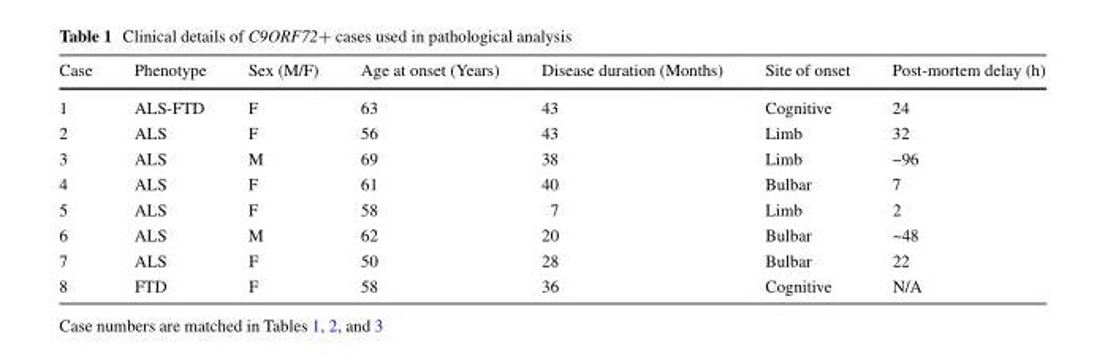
<table><thead><tr><td>Case</td><td>Phenotype</td><td>Sex (M/F)</td><td>Age at onset (Years)</td><td>Disease duration (Months)</td><td>Site of onset</td><td>Post-mortem delay (h)</td></tr></thead><tbody><tr><td>1</td><td>ALS-FTD</td><td>F</td><td>63</td><td>43</td><td>Cognitive</td><td>24</td></tr><tr><td>2</td><td>ALS</td><td>F</td><td>56</td><td>43</td><td>Limb</td><td>32</td></tr><tr><td>3</td><td>ALS</td><td>M</td><td>69</td><td>38</td><td>Limb</td><td>~96</td></tr><tr><td>4</td><td>ALS</td><td>F</td><td>61</td><td>40</td><td>Bulbar</td><td>7</td></tr><tr><td>5</td><td>ALS</td><td>F</td><td>58</td><td>7</td><td>Limb</td><td>2</td></tr><tr><td>6</td><td>ALS</td><td>M</td><td>62</td><td>20</td><td>Bulbar</td><td>~48</td></tr><tr><td>7</td><td>ALS</td><td>F</td><td>50</td><td>28</td><td>Bulbar</td><td>22</td></tr><tr><td>8</td><td>FTD</td><td>F</td><td>58</td><td>36</td><td>Cognitive</td><td>N/A</td></tr></tbody></table>